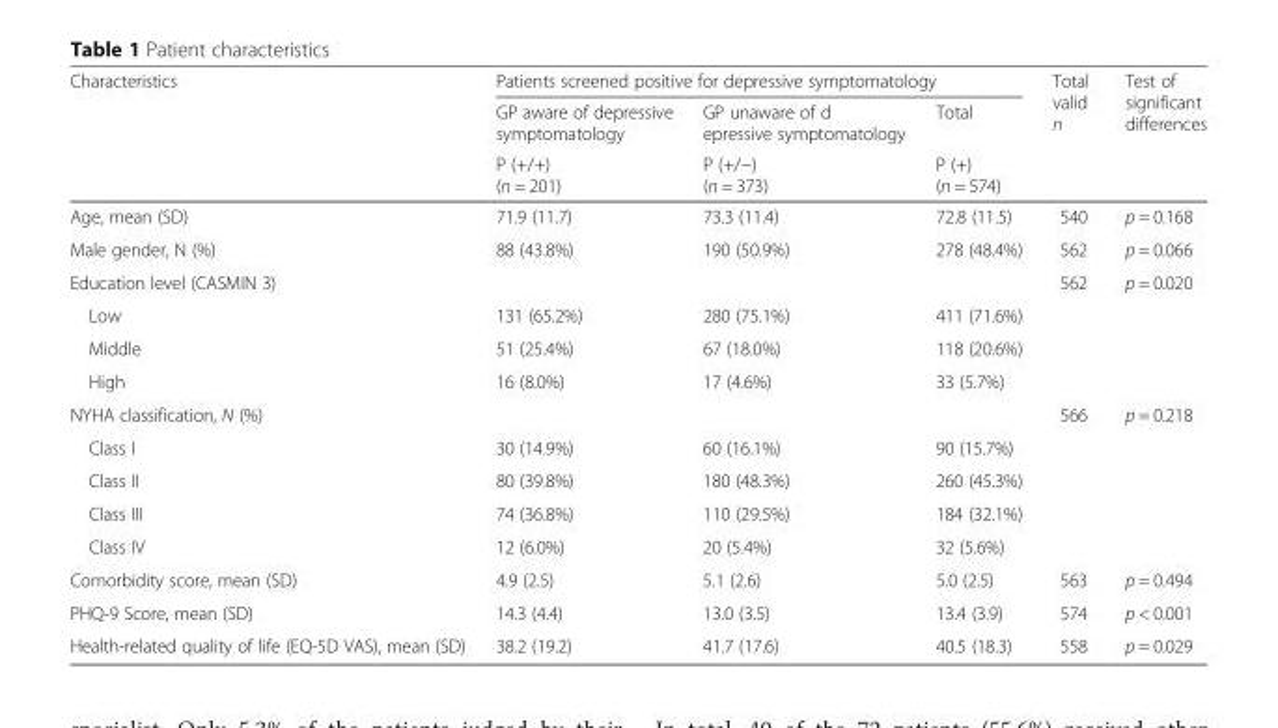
<table><thead><tr><td rowspan="3">Characteristics</td><td colspan="3">Patients screened positive for depressive symptomatology</td><td rowspan="3">Total valid n</td><td rowspan="3">Test of significant differences</td></tr><tr><td rowspan="2">GP aware of depressive symptomatology P (+/+) (n = 201)</td><td rowspan="2">GP unaware of d epressive symptomatology P (+/−) (n = 373)</td><td rowspan="2">Total P (+) (n = 574)</td></tr><tr></tr></thead><tbody><tr><td>Age, mean (SD)</td><td>71.9 (11.7)</td><td>73.3 (11.4)</td><td>72.8 (11.5)</td><td>540</td><td>p = 0.168</td></tr><tr><td>Male gender, N (%)</td><td>88 (43.8%)</td><td>190 (50.9%)</td><td>278 (48.4%)</td><td>562</td><td>p = 0.066</td></tr><tr><td>Education level (CASMIN 3)</td><td></td><td></td><td></td><td>562</td><td>p = 0.020</td></tr><tr><td>Low</td><td>131 (65.2%)</td><td>280 (75.1%)</td><td>411 (71.6%)</td><td></td><td></td></tr><tr><td>Middle</td><td>51 (25.4%)</td><td>67 (18.0%)</td><td>118 (20.6%)</td><td></td><td></td></tr><tr><td>High</td><td>16 (8.0%)</td><td>17 (4.6%)</td><td>33 (5.7%)</td><td></td><td></td></tr><tr><td>NYHA classification, N (%)</td><td></td><td></td><td></td><td>566</td><td>p = 0.218</td></tr><tr><td>Class I</td><td>30 (14.9%)</td><td>60 (16.1%)</td><td>90 (15.7%)</td><td></td><td></td></tr><tr><td>Class II</td><td>80 (39.8%)</td><td>180 (48.3%)</td><td>260 (45.3%)</td><td></td><td></td></tr><tr><td>Class III</td><td>74 (36.8%)</td><td>110 (29.5%)</td><td>184 (32.1%)</td><td></td><td></td></tr><tr><td>Class IV</td><td>12 (6.0%)</td><td>20 (5.4%)</td><td>32 (5.6%)</td><td></td><td></td></tr><tr><td>Comorbidity score, mean (SD)</td><td>4.9 (2.5)</td><td>5.1 (2.6)</td><td>5.0 (2.5)</td><td>563</td><td>p = 0.494</td></tr><tr><td>PHQ-9 Score, mean (SD)</td><td>14.3 (4.4)</td><td>13.0 (3.5)</td><td>13.4 (3.9)</td><td>574</td><td>p &lt; 0.001</td></tr><tr><td>Health-related quality of life (EQ-5D VAS), mean (SD)</td><td>38.2 (19.2)</td><td>41.7 (17.6)</td><td>40.5 (18.3)</td><td>558</td><td>p = 0.029</td></tr></tbody></table>